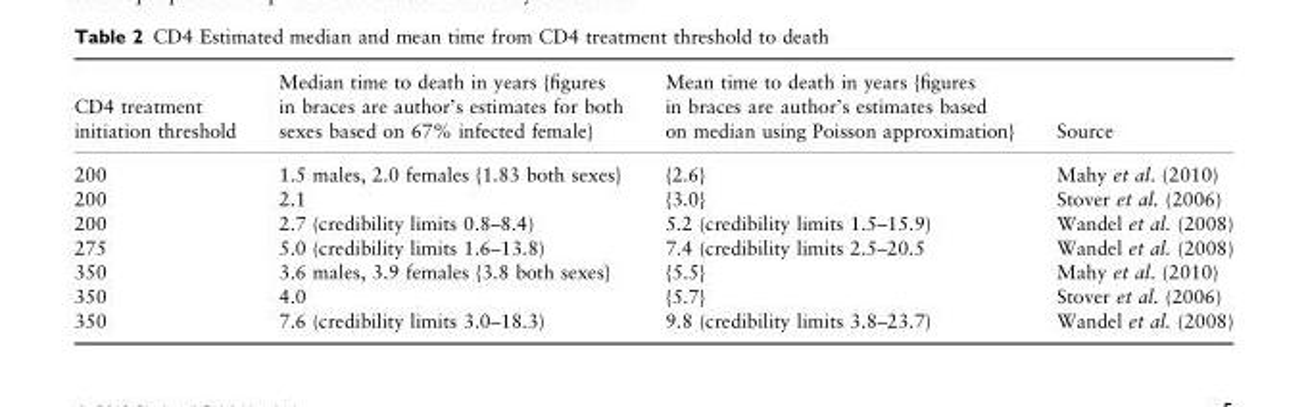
<table><thead><tr><td>CD4 treatment initiation threshold</td><td>Median time to death in years {figures in braces are author’s estimates for both sexes based on 67% infected female}</td><td>Mean time to death in years {figures in braces are author’s estimates based on median using Poisson approximation}</td><td>Source</td></tr></thead><tbody><tr><td>200</td><td>1.5 males, 2.0 females {1.83 both sexes}</td><td>{2.6}</td><td>Mahy et al. (2010)</td></tr><tr><td>200</td><td>2.1</td><td>{3.0}</td><td>Stover et al. (2006)</td></tr><tr><td>200</td><td>2.7 (credibility limits 0.8–8.4)</td><td>5.2 (credibility limits 1.5–15.9)</td><td>Wandel et al. (2008)</td></tr><tr><td>275</td><td>5.0 (credibility limits 1.6–13.8)</td><td>7.4 (credibility limits 2.5–20.5</td><td>Wandel et al. (2008)</td></tr><tr><td>350</td><td>3.6 males, 3.9 females {3.8 both sexes}</td><td>{5.5}</td><td>Mahy et al. (2010)</td></tr><tr><td>350</td><td>4.0</td><td>{5.7}</td><td>Stover et al. (2006)</td></tr><tr><td>350</td><td>7.6 (credibility limits 3.0–18.3)</td><td>9.8 (credibility limits 3.8–23.7)</td><td>Wandel et al. (2008)</td></tr></tbody></table>